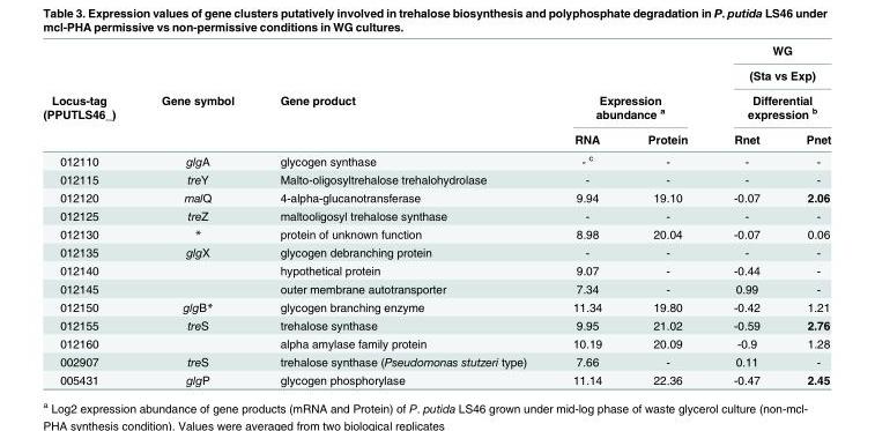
<table><thead><tr><td rowspan="5">Locus-tag (PPUTLS46_)</td><td rowspan="5">Gene symbol</td><td rowspan="5">Gene product</td><td rowspan="2"></td><td rowspan="2"></td><td rowspan="4" colspan="2">WG (Sta vs Exp) Differential expression <sup>b</sup></td></tr><tr></tr><tr><td rowspan="2" colspan="2">Expression abundance <sup>a</sup></td></tr><tr></tr><tr><td>RNA</td><td>Protein</td><td>Rnet</td><td>Pnet</td></tr></thead><tbody><tr><td>012110</td><td>glgA</td><td>glycogen synthase</td><td>- <sup>c</sup></td><td>-</td><td>-</td><td>-</td></tr><tr><td>012115</td><td>treY</td><td>Malto-oligosyltrehalose trehalohydrolase</td><td>-</td><td>-</td><td>-</td><td>-</td></tr><tr><td>012120</td><td>malQ</td><td>4-alpha-glucanotransferase</td><td>9.94</td><td>19.10</td><td>-0.07</td><td>2.06</td></tr><tr><td>012125</td><td>treZ</td><td>maltooligosyl trehalose synthase</td><td>-</td><td>-</td><td>-</td><td>-</td></tr><tr><td>012130</td><td>*</td><td>protein of unknown function</td><td>8.98</td><td>20.04</td><td>-0.07</td><td>0.06</td></tr><tr><td>012135</td><td>glgX</td><td>glycogen debranching protein</td><td>-</td><td>-</td><td>-</td><td>-</td></tr><tr><td>012140</td><td></td><td>hypothetical protein</td><td>9.07</td><td>-</td><td>-0.44</td><td>-</td></tr><tr><td>012145</td><td></td><td>outer membrane autotransporter</td><td>7.34</td><td>-</td><td>0.99</td><td>-</td></tr><tr><td>012150</td><td>glgB*</td><td>glycogen branching enzyme</td><td>11.34</td><td>19.80</td><td>-0.42</td><td>1.21</td></tr><tr><td>012155</td><td>treS</td><td>trehalose synthase</td><td>9.95</td><td>21.02</td><td>-0.59</td><td>2.76</td></tr><tr><td>012160</td><td></td><td>alpha amylase family protein</td><td>10.19</td><td>20.09</td><td>-0.9</td><td>1.28</td></tr><tr><td>002907</td><td>treS</td><td>trehalose synthase (Pseudomonas stutzeri type)</td><td>7.66</td><td>-</td><td>0.11</td><td>-</td></tr><tr><td>005431</td><td>glgP</td><td>glycogen phosphorylase</td><td>11.14</td><td>22.36</td><td>-0.47</td><td>2.45</td></tr></tbody></table>